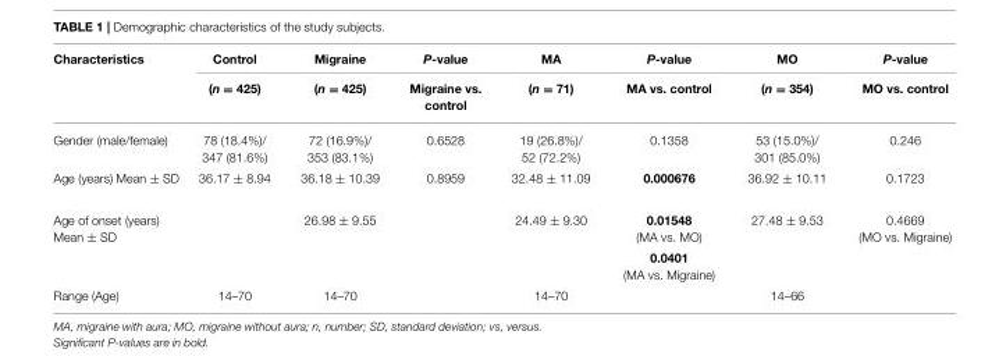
<table><thead><tr><td rowspan="2">Characteristics</td><td rowspan="2">Control (n = 425)</td><td rowspan="2">Migraine (n = 425)</td><td rowspan="2">P-value Migraine vs. control</td><td rowspan="2">MA (n = 71)</td><td rowspan="2">P-value MA vs. control</td><td rowspan="2">MO (n = 354)</td><td rowspan="2">P-value MO vs. control</td></tr><tr></tr></thead><tbody><tr><td>Gender (male/female)</td><td>78 (18.4%)/ 347 (81.6%)</td><td>72 (16.9%)/ 353 (83.1%)</td><td>0.6528</td><td>19 (26.8%)/ 52 (72.2%)</td><td>0.1358</td><td>53 (15.0%)/ 301 (85.0%)</td><td>0.246</td></tr><tr><td>Age (years) Mean ± SD</td><td>36.17 ± 8.94</td><td>36.18 ± 10.39</td><td>0.8959</td><td>32.48 ± 11.09</td><td>0.000676</td><td>36.92 ± 10.11</td><td>0.1723</td></tr><tr><td rowspan="2">Age of onset (years) Mean ± SD</td><td></td><td>26.98 ± 9.55</td><td></td><td>24.49 ± 9.30</td><td>0.01548 (MA vs. MO)</td><td>27.48 ± 9.53</td><td>0.4669 (MO vs. Migraine)</td></tr><tr><td></td><td></td><td></td><td></td><td>0.0401 (MA vs. Migraine)</td><td></td><td></td></tr><tr><td>Range (Age)</td><td>14–70</td><td>14–70</td><td></td><td>14–70</td><td></td><td>14–66</td><td></td></tr></tbody></table>